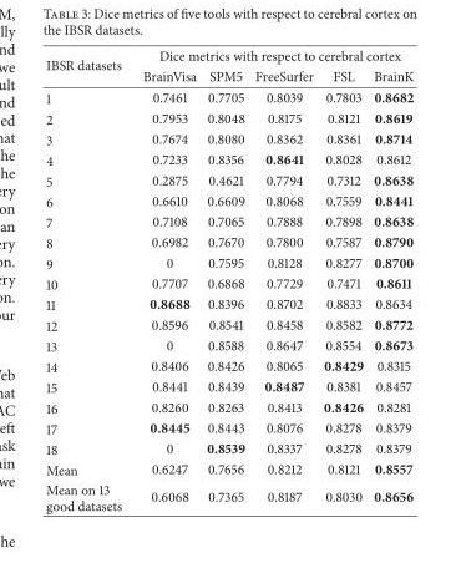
<table><thead><tr><td rowspan="2">IBSR datasets</td><td colspan="5">Dice metrics with respect to cerebral cortex</td></tr><tr><td>BrainVisa</td><td>SPM5</td><td>FreeSurfer</td><td>FSL</td><td>BrainK</td></tr></thead><tbody><tr><td>1</td><td>0.7461</td><td>0.7705</td><td>0.8039</td><td>0.7803</td><td>0.8682</td></tr><tr><td>2</td><td>0.7953</td><td>0.8048</td><td>0.8175</td><td>0.8121</td><td>0.8619</td></tr><tr><td>3</td><td>0.7674</td><td>0.8080</td><td>0.8362</td><td>0.8361</td><td>0.8714</td></tr><tr><td>4</td><td>0.7233</td><td>0.8356</td><td>0.8641</td><td>0.8028</td><td>0.8612</td></tr><tr><td>5</td><td>0.2875</td><td>0.4621</td><td>0.7794</td><td>0.7312</td><td>0.8638</td></tr><tr><td>6</td><td>0.6610</td><td>0.6609</td><td>0.8068</td><td>0.7559</td><td>0.8441</td></tr><tr><td>7</td><td>0.7108</td><td>0.7065</td><td>0.7888</td><td>0.7898</td><td>0.8638</td></tr><tr><td>8</td><td>0.6982</td><td>0.7670</td><td>0.7800</td><td>0.7587</td><td>0.8790</td></tr><tr><td>9</td><td>0</td><td>0.7595</td><td>0.8128</td><td>0.8277</td><td>0.8700</td></tr><tr><td>10</td><td>0.7707</td><td>0.6868</td><td>0.7729</td><td>0.7471</td><td>0.8611</td></tr><tr><td>11</td><td>0.8688</td><td>0.8396</td><td>0.8702</td><td>0.8833</td><td>0.8634</td></tr><tr><td>12</td><td>0.8596</td><td>0.8541</td><td>0.8458</td><td>0.8582</td><td>0.8772</td></tr><tr><td>13</td><td>0</td><td>0.8588</td><td>0.8647</td><td>0.8554</td><td>0.8673</td></tr><tr><td>14</td><td>0.8406</td><td>0.8426</td><td>0.8065</td><td>0.8429</td><td>0.8315</td></tr><tr><td>15</td><td>0.8441</td><td>0.8439</td><td>0.8487</td><td>0.8381</td><td>0.8457</td></tr><tr><td>16</td><td>0.8260</td><td>0.8263</td><td>0.8413</td><td>0.8426</td><td>0.8281</td></tr><tr><td>17</td><td>0.8445</td><td>0.8443</td><td>0.8076</td><td>0.8278</td><td>0.8379</td></tr><tr><td>18</td><td>0</td><td>0.8539</td><td>0.8337</td><td>0.8278</td><td>0.8379</td></tr><tr><td>Mean</td><td>0.6247</td><td>0.7656</td><td>0.8212</td><td>0.8121</td><td>0.8557</td></tr><tr><td>Mean on 13 good datasets</td><td>0.6068</td><td>0.7365</td><td>0.8187</td><td>0.8030</td><td>0.8656</td></tr></tbody></table>